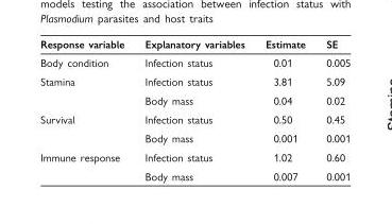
<table><thead><tr><td>Response variable</td><td>Explanatory variables</td><td>Estimate</td><td>SE</td></tr></thead><tbody><tr><td>Body condition</td><td>Infection status</td><td>0.01</td><td>0.005</td></tr><tr><td rowspan="2">Stamina</td><td>Infection status</td><td>3.81</td><td>5.09</td></tr><tr><td>Body mass</td><td>0.04</td><td>0.02</td></tr><tr><td rowspan="2">Survival</td><td>Infection status</td><td>0.50</td><td>0.45</td></tr><tr><td>Body mass</td><td>0.001</td><td>0.001</td></tr><tr><td rowspan="2">Immune response</td><td>Infection status</td><td>1.02</td><td>0.60</td></tr><tr><td>Body mass</td><td>0.007</td><td>0.001</td></tr></tbody></table>